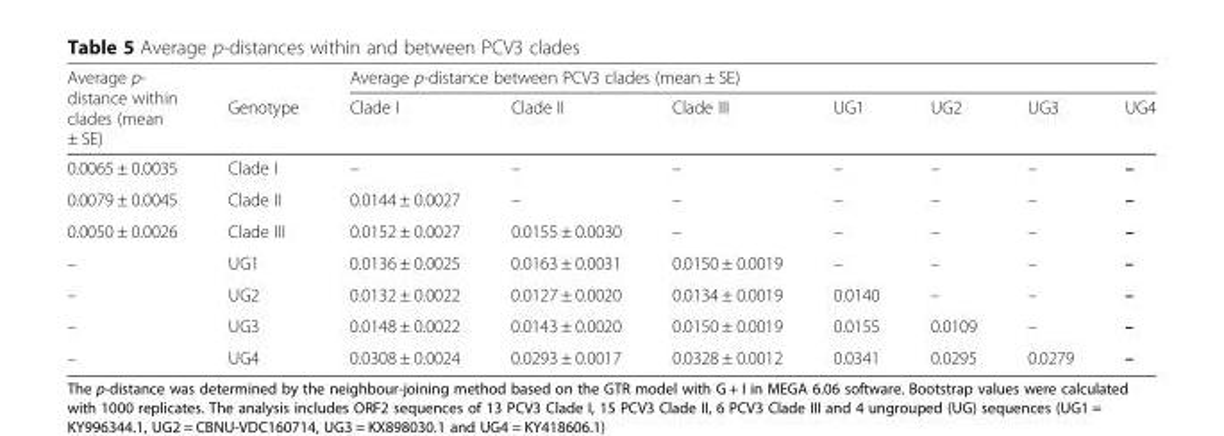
<table><thead><tr><td rowspan="2">Average p- distance within clades (mean ± SE)</td><td rowspan="2">Genotype</td><td colspan="7">Average p-distance between PCV3 clades (mean ± SE)</td></tr><tr><td>Clade I</td><td>Clade II</td><td>Clade III</td><td>UG1</td><td>UG2</td><td>UG3</td><td>UG4</td></tr></thead><tbody><tr><td>0.0065 ± 0.0035</td><td>Clade I</td><td>–</td><td>–</td><td>–</td><td>–</td><td>–</td><td>–</td><td>–</td></tr><tr><td>0.0079 ± 0.0045</td><td>Clade II</td><td>0.0144 ± 0.0027</td><td>–</td><td>–</td><td>–</td><td>–</td><td>–</td><td>–</td></tr><tr><td>0.0050 ± 0.0026</td><td>Clade III</td><td>0.0152 ± 0.0027</td><td>0.0155 ± 0.0030</td><td>–</td><td>–</td><td>–</td><td>–</td><td>–</td></tr><tr><td>–</td><td>UG1</td><td>0.0136 ± 0.0025</td><td>0.0163 ± 0.0031</td><td>0.0150 ± 0.0019</td><td>–</td><td>–</td><td>–</td><td>–</td></tr><tr><td>–</td><td>UG2</td><td>0.0132 ± 0.0022</td><td>0.0127 ± 0.0020</td><td>0.0134 ± 0.0019</td><td>0.0140</td><td>–</td><td>–</td><td>–</td></tr><tr><td>–</td><td>UG3</td><td>0.0148 ± 0.0022</td><td>0.0143 ± 0.0020</td><td>0.0150 ± 0.0019</td><td>0.0155</td><td>0.0109</td><td>–</td><td>–</td></tr><tr><td>–</td><td>UG4</td><td>0.0308 ± 0.0024</td><td>0.0293 ± 0.0017</td><td>0.0328 ± 0.0012</td><td>0.0341</td><td>0.0295</td><td>0.0279</td><td>–</td></tr></tbody></table>